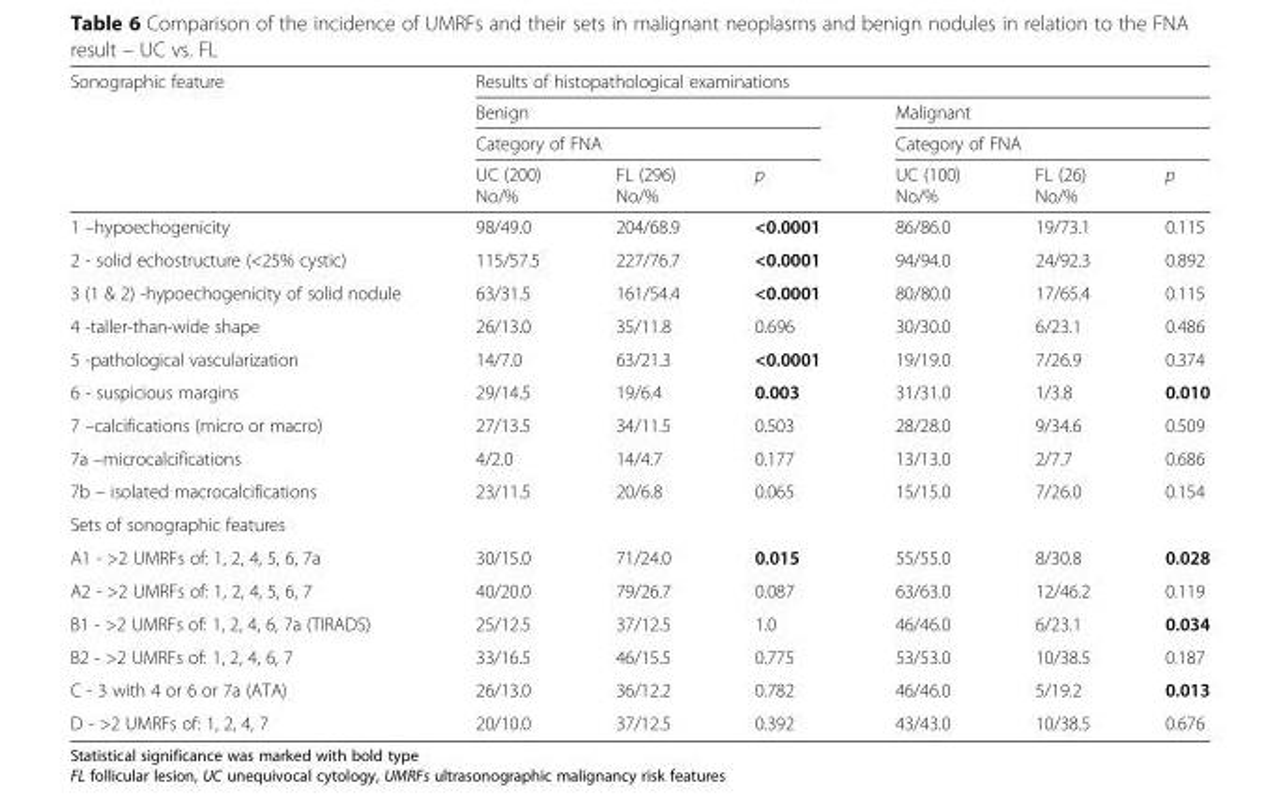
<table><thead><tr><td rowspan="4">Sonographic feature</td><td colspan="6">Results of histopathological examinations</td></tr><tr><td rowspan="2" colspan="3">Benign Category of FNA</td><td rowspan="2" colspan="3">Malignant Category of FNA</td></tr><tr></tr><tr><td>UC (200) No/%</td><td>FL (296) No/%</td><td>p</td><td>UC (100) No/%</td><td>FL (26) No/%</td><td>p</td></tr></thead><tbody><tr><td>1 –hypoechogenicity</td><td>98/49.0</td><td>204/68.9</td><td>&lt;0.0001</td><td>86/86.0</td><td>19/73.1</td><td>0.115</td></tr><tr><td>2 - solid echostructure (&lt;25% cystic)</td><td>115/57.5</td><td>227/76.7</td><td>&lt;0.0001</td><td>94/94.0</td><td>24/92.3</td><td>0.892</td></tr><tr><td>3 (1 &amp; 2) -hypoechogenicity of solid nodule</td><td>63/31.5</td><td>161/54.4</td><td>&lt;0.0001</td><td>80/80.0</td><td>17/65.4</td><td>0.115</td></tr><tr><td>4 -taller-than-wide shape</td><td>26/13.0</td><td>35/11.8</td><td>0.696</td><td>30/30.0</td><td>6/23.1</td><td>0.486</td></tr><tr><td>5 -pathological vascularization</td><td>14/7.0</td><td>63/21.3</td><td>&lt;0.0001</td><td>19/19.0</td><td>7/26.9</td><td>0.374</td></tr><tr><td>6 - suspicious margins</td><td>29/14.5</td><td>19/6.4</td><td>0.003</td><td>31/31.0</td><td>1/3.8</td><td>0.010</td></tr><tr><td>7 –calcifications (micro or macro)</td><td>27/13.5</td><td>34/11.5</td><td>0.503</td><td>28/28.0</td><td>9/34.6</td><td>0.509</td></tr><tr><td>7a –microcalcifications</td><td>4/2.0</td><td>14/4.7</td><td>0.177</td><td>13/13.0</td><td>2/7.7</td><td>0.686</td></tr><tr><td>7b – isolated macrocalcifications</td><td>23/11.5</td><td>20/6.8</td><td>0.065</td><td>15/15.0</td><td>7/26.0</td><td>0.154</td></tr><tr><td colspan="7">Sets of sonographic features</td></tr><tr><td>A1 - &gt;2 UMRFs of: 1, 2, 4, 5, 6, 7a</td><td>30/15.0</td><td>71/24.0</td><td>0.015</td><td>55/55.0</td><td>8/30.8</td><td>0.028</td></tr><tr><td>A2 - &gt;2 UMRFs of: 1, 2, 4, 5, 6, 7</td><td>40/20.0</td><td>79/26.7</td><td>0.087</td><td>63/63.0</td><td>12/46.2</td><td>0.119</td></tr><tr><td>B1 - &gt;2 UMRFs of: 1, 2, 4, 6, 7a (TIRADS)</td><td>25/12.5</td><td>37/12.5</td><td>1.0</td><td>46/46.0</td><td>6/23.1</td><td>0.034</td></tr><tr><td>B2 - &gt;2 UMRFs of: 1, 2, 4, 6, 7</td><td>33/16.5</td><td>46/15.5</td><td>0.775</td><td>53/53.0</td><td>10/38.5</td><td>0.187</td></tr><tr><td>C - 3 with 4 or 6 or 7a (ATA)</td><td>26/13.0</td><td>36/12.2</td><td>0.782</td><td>46/46.0</td><td>5/19.2</td><td>0.013</td></tr><tr><td>D - &gt;2 UMRFs of: 1, 2, 4, 7</td><td>20/10.0</td><td>37/12.5</td><td>0.392</td><td>43/43.0</td><td>10/38.5</td><td>0.676</td></tr></tbody></table>